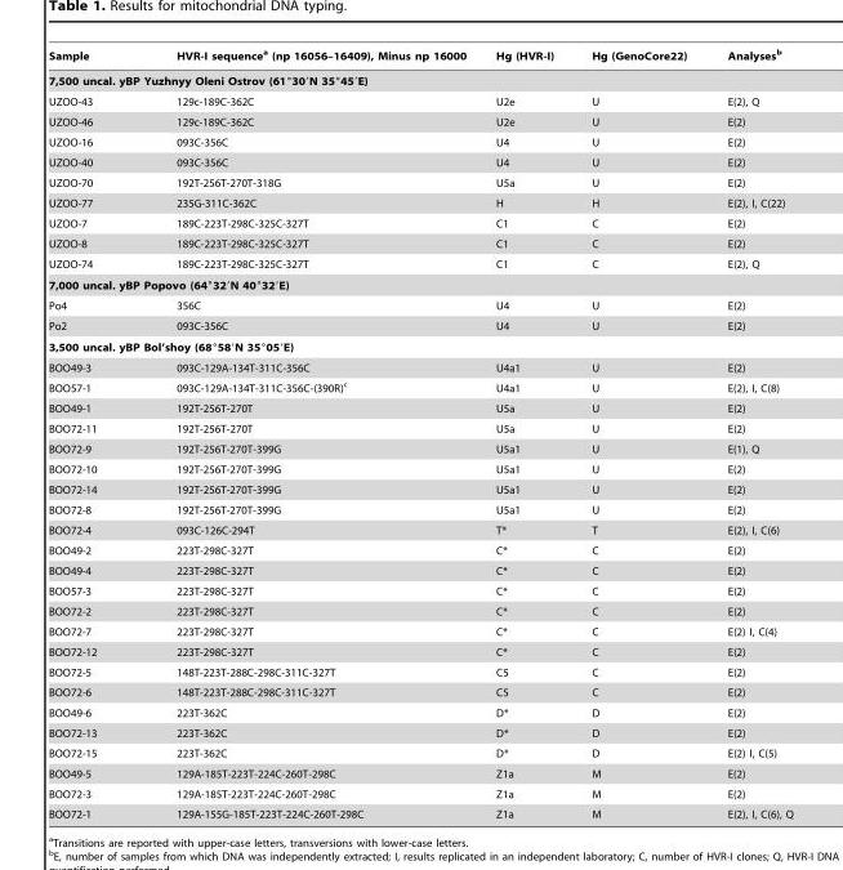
<table><thead><tr><td>Sample</td><td>HVR-I sequence<sup>a</sup> (np 16056–16409), Minus np 16000</td><td>Hg (HVR-I)</td><td>Hg (GenoCore22)</td><td>Analyses<sup>b</sup></td></tr></thead><tbody><tr><td colspan="5">7,500 uncal. yBP Yuzhnyy Oleni Ostrov (61°30′N 35°45′E)</td></tr><tr><td>UZOO-43</td><td>129c-189C-362C</td><td>U2e</td><td>U</td><td>E(2), Q</td></tr><tr><td>UZOO-46</td><td>129c-189C-362C</td><td>U2e</td><td>U</td><td>E(2)</td></tr><tr><td>UZOO-16</td><td>093C-356C</td><td>U4</td><td>U</td><td>E(2)</td></tr><tr><td>UZOO-40</td><td>093C-356C</td><td>U4</td><td>U</td><td>E(2)</td></tr><tr><td>UZOO-70</td><td>192T-256T-270T-318G</td><td>U5a</td><td>U</td><td>E(2)</td></tr><tr><td>UZOO-77</td><td>235G-311C-362C</td><td>H</td><td>H</td><td>E(2), I, C(22)</td></tr><tr><td>UZOO-7</td><td>189C-223T-298C-325C-327T</td><td>C1</td><td>C</td><td>E(2)</td></tr><tr><td>UZOO-8</td><td>189C-223T-298C-325C-327T</td><td>C1</td><td>C</td><td>E(2)</td></tr><tr><td>UZOO-74</td><td>189C-223T-298C-325C-327T</td><td>C1</td><td>C</td><td>E(2), Q</td></tr><tr><td colspan="5">7,000 uncal. yBP Popovo (64°32′N 40°32′E)</td></tr><tr><td>Po4</td><td>356C</td><td>U4</td><td>U</td><td>E(2)</td></tr><tr><td>Po2</td><td>093C-356C</td><td>U4</td><td>U</td><td>E(2)</td></tr><tr><td colspan="5">3,500 uncal. yBP Bol’shoy (68°58′N 35°05′E)</td></tr><tr><td>BOO49-3</td><td>093C-129A-134T-311C-356C</td><td>U4a1</td><td>U</td><td>E(2)</td></tr><tr><td>BOO57-1</td><td>093C-129A-134T-311C-356C-(390R)<sup>c</sup></td><td>U4a1</td><td>U</td><td>E(2), I, C(8)</td></tr><tr><td>BOO49-1</td><td>192T-256T-270T</td><td>U5a</td><td>U</td><td>E(2)</td></tr><tr><td>BOO72-11</td><td>192T-256T-270T</td><td>U5a</td><td>U</td><td>E(2)</td></tr><tr><td>BOO72-9</td><td>192T-256T-270T-399G</td><td>U5a1</td><td>U</td><td>E(1), Q</td></tr><tr><td>BOO72-10</td><td>192T-256T-270T-399G</td><td>U5a1</td><td>U</td><td>E(2)</td></tr><tr><td>BOO72-14</td><td>192T-256T-270T-399G</td><td>U5a1</td><td>U</td><td>E(2)</td></tr><tr><td>BOO72-8</td><td>192T-256T-270T-399G</td><td>U5a1</td><td>U</td><td>E(2)</td></tr><tr><td>BOO72-4</td><td>093C-126C-294T</td><td>T*</td><td>T</td><td>E(2), I, C(6)</td></tr><tr><td>BOO49-2</td><td>223T-298C-327T</td><td>C*</td><td>C</td><td>E(2)</td></tr><tr><td>BOO49-4</td><td>223T-298C-327T</td><td>C*</td><td>C</td><td>E(2)</td></tr><tr><td>BOO57-3</td><td>223T-298C-327T</td><td>C*</td><td>C</td><td>E(2)</td></tr><tr><td>BOO72-2</td><td>223T-298C-327T</td><td>C*</td><td>C</td><td>E(2)</td></tr><tr><td>BOO72-7</td><td>223T-298C-327T</td><td>C*</td><td>C</td><td>E(2) I, C(4)</td></tr><tr><td>BOO72-12</td><td>223T-298C-327T</td><td>C*</td><td>C</td><td>E(2)</td></tr><tr><td>BOO72-5</td><td>148T-223T-288C-298C-311C-327T</td><td>C5</td><td>C</td><td>E(2)</td></tr><tr><td>BOO72-6</td><td>148T-223T-288C-298C-311C-327T</td><td>C5</td><td>C</td><td>E(2)</td></tr><tr><td>BOO49-6</td><td>223T-362C</td><td>D*</td><td>D</td><td>E(2)</td></tr><tr><td>BOO72-13</td><td>223T-362C</td><td>D*</td><td>D</td><td>E(2)</td></tr><tr><td>BOO72-15</td><td>223T-362C</td><td>D*</td><td>D</td><td>E(2) I, C(5)</td></tr><tr><td>BOO49-5</td><td>129A-185T-223T-224C-260T-298C</td><td>Z1a</td><td>M</td><td>E(2)</td></tr><tr><td>BOO72-3</td><td>129A-185T-223T-224C-260T-298C</td><td>Z1a</td><td>M</td><td>E(2)</td></tr><tr><td>BOO72-1</td><td>129A-155G-185T-223T-224C-260T-298C</td><td>Z1a</td><td>M</td><td>E(2), I, C(6), Q</td></tr></tbody></table>